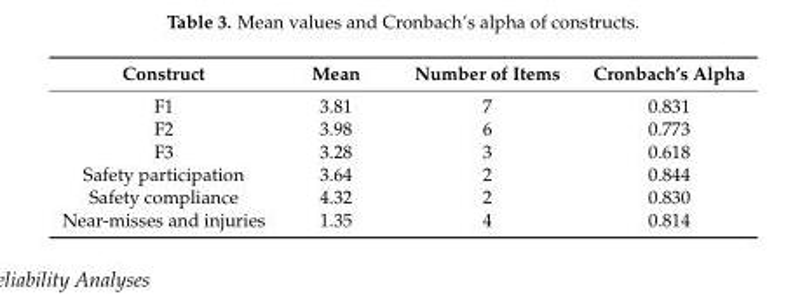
<table><thead><tr><td>Construct</td><td>Mean</td><td>Number of Items</td><td>Cronbach’s Alpha</td></tr></thead><tbody><tr><td>F1</td><td>3.81</td><td>7</td><td>0.831</td></tr><tr><td>F2</td><td>3.98</td><td>6</td><td>0.773</td></tr><tr><td>F3</td><td>3.28</td><td>3</td><td>0.618</td></tr><tr><td>Safety participation</td><td>3.64</td><td>2</td><td>0.844</td></tr><tr><td>Safety compliance</td><td>4.32</td><td>2</td><td>0.830</td></tr><tr><td>Near-misses and injuries</td><td>1.35</td><td>4</td><td>0.814</td></tr></tbody></table>